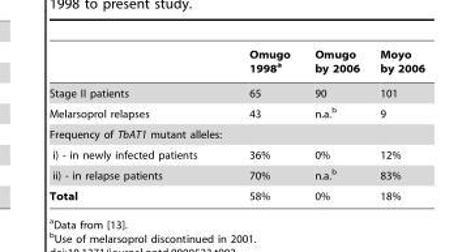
<table><thead><tr><td></td><td>Omugo 1998<sup>a</sup></td><td>Omugo by 2006</td><td>Moyo by 2006</td></tr></thead><tbody><tr><td>Stage II patients</td><td>65</td><td>90</td><td>101</td></tr><tr><td>Melarsoprol relapses</td><td>43</td><td>n.a.<sup>b</sup></td><td>9</td></tr><tr><td colspan="4">Frequency of TbAT1 mutant alleles:</td></tr><tr><td>i) - in newly infected patients</td><td>36%</td><td>0%</td><td>12%</td></tr><tr><td>ii) - in relapse patients</td><td>70%</td><td>n.a.<sup>b</sup></td><td>83%</td></tr><tr><td>Total</td><td>58%</td><td>0%</td><td>18%</td></tr></tbody></table>